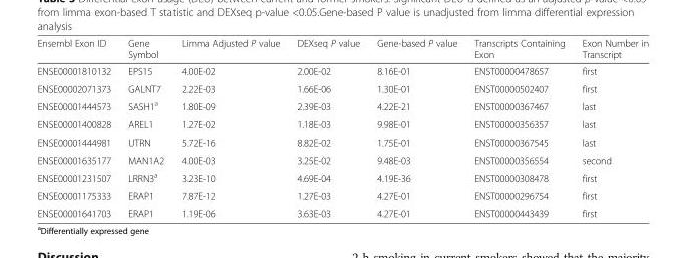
<table><thead><tr><td>Ensembl Exon ID</td><td>Gene Symbol</td><td>Limma Adjusted P value</td><td>DEXseq P value</td><td>Gene-based P value</td><td>Transcripts Containing Exon</td><td>Exon Number in Transcript</td></tr></thead><tbody><tr><td>ENSE00001810132</td><td>EPS15</td><td>4.00E-02</td><td>2.00E-02</td><td>8.16E-01</td><td>ENST00000478657</td><td>first</td></tr><tr><td>ENSE00002071373</td><td>GALNT7</td><td>2.22E-03</td><td>1.66E-06</td><td>1.30E-01</td><td>ENST00000502407</td><td>first</td></tr><tr><td>ENSE00001444573</td><td>SASH1<sup>a</sup></td><td>1.80E-09</td><td>2.39E-03</td><td>4.22E-21</td><td>ENST00000367467</td><td>last</td></tr><tr><td>ENSE00001400828</td><td>AREL1</td><td>1.27E-02</td><td>1.18E-03</td><td>9.98E-01</td><td>ENST00000356357</td><td>last</td></tr><tr><td>ENSE00001444981</td><td>UTRN</td><td>5.72E-16</td><td>8.82E-02</td><td>1.75E-01</td><td>ENST00000367545</td><td>last</td></tr><tr><td>ENSE00001635177</td><td>MAN1A2</td><td>4.00E-03</td><td>3.25E-02</td><td>9.48E-03</td><td>ENST00000356554</td><td>second</td></tr><tr><td>ENSE00001231507</td><td>LRRN3<sup>a</sup></td><td>3.23E-10</td><td>4.69E-04</td><td>4.19E-36</td><td>ENST00000308478</td><td>first</td></tr><tr><td>ENSE00001175333</td><td>ERAP1</td><td>7.87E-12</td><td>1.27E-03</td><td>4.27E-01</td><td>ENST00000296754</td><td>first</td></tr><tr><td>ENSE00001641703</td><td>ERAP1</td><td>1.19E-06</td><td>3.63E-03</td><td>4.27E-01</td><td>ENST00000443439</td><td>first</td></tr></tbody></table>